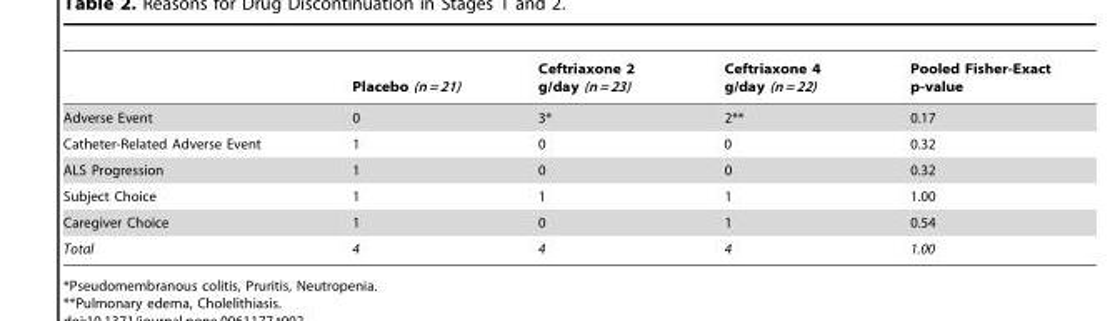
<table><thead><tr><td></td><td>Placebo (n = 21)</td><td>Ceftriaxone 2 g/day (n = 23)</td><td>Ceftriaxone 4 g/day (n = 22)</td><td>Pooled Fisher-Exact p-value</td></tr></thead><tbody><tr><td>Adverse Event</td><td>0</td><td>3*</td><td>2**</td><td>0.17</td></tr><tr><td>Catheter-Related Adverse Event</td><td>1</td><td>0</td><td>0</td><td>0.32</td></tr><tr><td>ALS Progression</td><td>1</td><td>0</td><td>0</td><td>0.32</td></tr><tr><td>Subject Choice</td><td>1</td><td>1</td><td>1</td><td>1.00</td></tr><tr><td>Caregiver Choice</td><td>1</td><td>0</td><td>1</td><td>0.54</td></tr><tr><td>Total</td><td>4</td><td>4</td><td>4</td><td>1.00</td></tr></tbody></table>